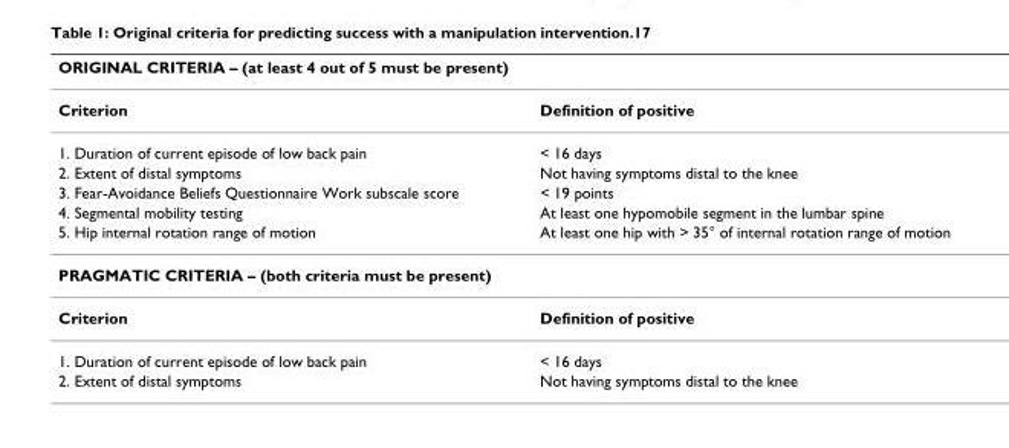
<table><thead><tr><td colspan="2">ORIGINAL CRITERIA – (at least 4 out of 5 must be present)</td></tr><tr><td>Criterion</td><td>Definition of positive</td></tr></thead><tbody><tr><td>1. Duration of current episode of low back pain</td><td>&lt; 16 days</td></tr><tr><td>2. Extent of distal symptoms</td><td>Not having symptoms distal to the knee</td></tr><tr><td>3. Fear-Avoidance Beliefs Questionnaire Work subscale score</td><td>&lt; 19 points</td></tr><tr><td>4. Segmental mobility testing</td><td>At least one hypomobile segment in the lumbar spine</td></tr><tr><td>5. Hip internal rotation range of motion</td><td>At least one hip with &gt; 35° of internal rotation range of motion</td></tr><tr><td colspan="2">PRAGMATIC CRITERIA – (both criteria must be present)</td></tr><tr><td>Criterion</td><td>Definition of positive</td></tr><tr><td>1. Duration of current episode of low back pain</td><td>&lt; 16 days</td></tr><tr><td>2. Extent of distal symptoms</td><td>Not having symptoms distal to the knee</td></tr></tbody></table>